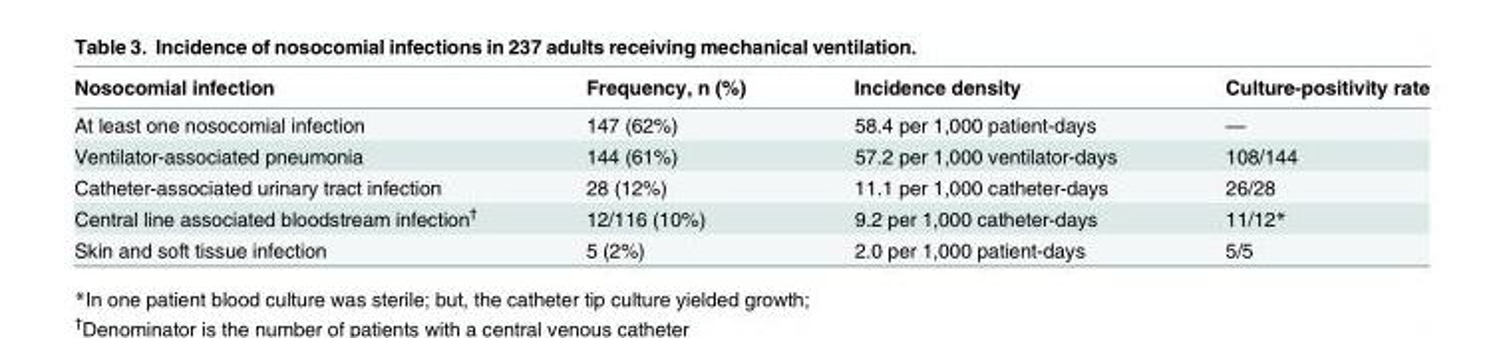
<table><thead><tr><td>Nosocomial infection</td><td>Frequency, n (%)</td><td>Incidence density</td><td>Culture-positivity rate</td></tr></thead><tbody><tr><td>At least one nosocomial infection</td><td>147 (62%)</td><td>58.4 per 1,000 patient-days</td><td>—</td></tr><tr><td>Ventilator-associated pneumonia</td><td>144 (61%)</td><td>57.2 per 1,000 ventilator-days</td><td>108/144</td></tr><tr><td>Catheter-associated urinary tract infection</td><td>28 (12%)</td><td>11.1 per 1,000 catheter-days</td><td>26/28</td></tr><tr><td>Central line associated bloodstream infection<sup>†</sup></td><td>12/116 (10%)</td><td>9.2 per 1,000 catheter-days</td><td>11/12*</td></tr><tr><td>Skin and soft tissue infection</td><td>5 (2%)</td><td>2.0 per 1,000 patient-days</td><td>5/5</td></tr></tbody></table>